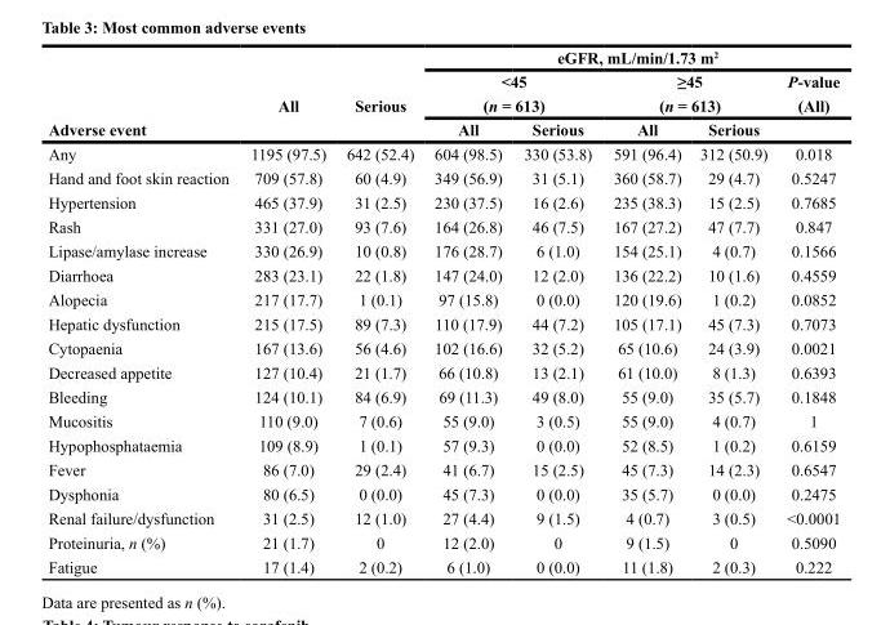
<table><thead><tr><td rowspan="4">Adverse event</td><td rowspan="4">All</td><td rowspan="4">Serious</td><td colspan="5">eGFR, mL/min/1.73 m<sup>2</sup></td></tr><tr><td rowspan="2" colspan="2">&lt;45 (n = 613)</td><td rowspan="2" colspan="2">≥45 (n = 613)</td><td rowspan="3">P-value (All)</td></tr><tr></tr><tr><td>All</td><td>Serious</td><td>All</td><td>Serious</td></tr></thead><tbody><tr><td>Any</td><td>1195 (97.5)</td><td>642 (52.4)</td><td>604 (98.5)</td><td>330 (53.8)</td><td>591 (96.4)</td><td>312 (50.9)</td><td>0.018</td></tr><tr><td>Hand and foot skin reaction</td><td>709 (57.8)</td><td>60 (4.9)</td><td>349 (56.9)</td><td>31 (5.1)</td><td>360 (58.7)</td><td>29 (4.7)</td><td>0.5247</td></tr><tr><td>Hypertension</td><td>465 (37.9)</td><td>31 (2.5)</td><td>230 (37.5)</td><td>16 (2.6)</td><td>235 (38.3)</td><td>15 (2.5)</td><td>0.7685</td></tr><tr><td>Rash</td><td>331 (27.0)</td><td>93 (7.6)</td><td>164 (26.8)</td><td>46 (7.5)</td><td>167 (27.2)</td><td>47 (7.7)</td><td>0.847</td></tr><tr><td>Lipase/amylase increase</td><td>330 (26.9)</td><td>10 (0.8)</td><td>176 (28.7)</td><td>6 (1.0)</td><td>154 (25.1)</td><td>4 (0.7)</td><td>0.1566</td></tr><tr><td>Diarrhoea</td><td>283 (23.1)</td><td>22 (1.8)</td><td>147 (24.0)</td><td>12 (2.0)</td><td>136 (22.2)</td><td>10 (1.6)</td><td>0.4559</td></tr><tr><td>Alopecia</td><td>217 (17.7)</td><td>1 (0.1)</td><td>97 (15.8)</td><td>0 (0.0)</td><td>120 (19.6)</td><td>1 (0.2)</td><td>0.0852</td></tr><tr><td>Hepatic dysfunction</td><td>215 (17.5)</td><td>89 (7.3)</td><td>110 (17.9)</td><td>44 (7.2)</td><td>105 (17.1)</td><td>45 (7.3)</td><td>0.7073</td></tr><tr><td>Cytopaenia</td><td>167 (13.6)</td><td>56 (4.6)</td><td>102 (16.6)</td><td>32 (5.2)</td><td>65 (10.6)</td><td>24 (3.9)</td><td>0.0021</td></tr><tr><td>Decreased appetite</td><td>127 (10.4)</td><td>21 (1.7)</td><td>66 (10.8)</td><td>13 (2.1)</td><td>61 (10.0)</td><td>8 (1.3)</td><td>0.6393</td></tr><tr><td>Bleeding</td><td>124 (10.1)</td><td>84 (6.9)</td><td>69 (11.3)</td><td>49 (8.0)</td><td>55 (9.0)</td><td>35 (5.7)</td><td>0.1848</td></tr><tr><td>Mucositis</td><td>110 (9.0)</td><td>7 (0.6)</td><td>55 (9.0)</td><td>3 (0.5)</td><td>55 (9.0)</td><td>4 (0.7)</td><td>1</td></tr><tr><td>Hypophosphataemia</td><td>109 (8.9)</td><td>1 (0.1)</td><td>57 (9.3)</td><td>0 (0.0)</td><td>52 (8.5)</td><td>1 (0.2)</td><td>0.6159</td></tr><tr><td>Fever</td><td>86 (7.0)</td><td>29 (2.4)</td><td>41 (6.7)</td><td>15 (2.5)</td><td>45 (7.3)</td><td>14 (2.3)</td><td>0.6547</td></tr><tr><td>Dysphonia</td><td>80 (6.5)</td><td>0 (0.0)</td><td>45 (7.3)</td><td>0 (0.0)</td><td>35 (5.7)</td><td>0 (0.0)</td><td>0.2475</td></tr><tr><td>Renal failure/dysfunction</td><td>31 (2.5)</td><td>12 (1.0)</td><td>27 (4.4)</td><td>9 (1.5)</td><td>4 (0.7)</td><td>3 (0.5)</td><td>&lt;0.0001</td></tr><tr><td>Proteinuria, n (%)</td><td>21 (1.7)</td><td>0</td><td>12 (2.0)</td><td>0</td><td>9 (1.5)</td><td>0</td><td>0.5090</td></tr><tr><td>Fatigue</td><td>17 (1.4)</td><td>2 (0.2)</td><td>6 (1.0)</td><td>0 (0.0)</td><td>11 (1.8)</td><td>2 (0.3)</td><td>0.222</td></tr></tbody></table>